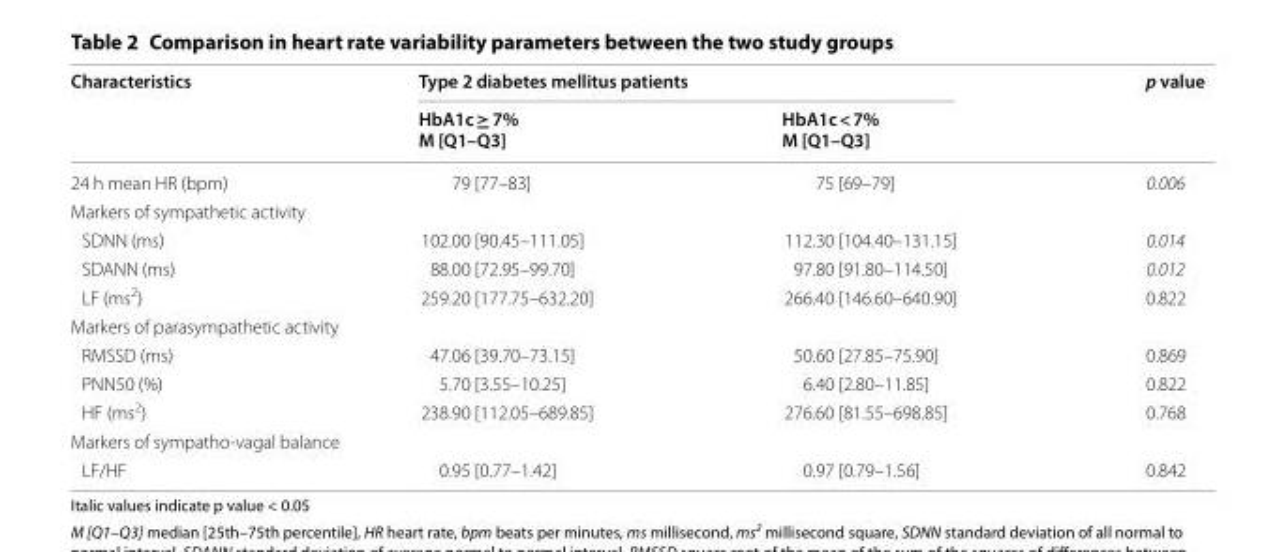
<table><thead><tr><td rowspan="2">Characteristics</td><td colspan="2">Type 2 diabetes mellitus patients</td><td rowspan="2">p value</td></tr><tr><td>HbA1c ≥ 7% M [Q1–Q3]</td><td>HbA1c &lt; 7% M [Q1–Q3]</td></tr></thead><tbody><tr><td>24 h mean HR (bpm)</td><td>79 [77–83]</td><td>75 [69–79]</td><td>0.006</td></tr><tr><td colspan="4">Markers of sympathetic activity</td></tr><tr><td>SDNN (ms)</td><td>102.00 [90.45–111.05]</td><td>112.30 [104.40–131.15]</td><td>0.014</td></tr><tr><td>SDANN (ms)</td><td>88.00 [72.95–99.70]</td><td>97.80 [91.80–114.50]</td><td>0.012</td></tr><tr><td>LF (ms<sup>2</sup>)</td><td>259.20 [177.75–632.20]</td><td>266.40 [146.60–640.90]</td><td>0.822</td></tr><tr><td colspan="4">Markers of parasympathetic activity</td></tr><tr><td>RMSSD (ms)</td><td>47.06 [39.70–73.15]</td><td>50.60 [27.85–75.90]</td><td>0.869</td></tr><tr><td>PNN50 (%)</td><td>5.70 [3.55–10.25]</td><td>6.40 [2.80–11.85]</td><td>0.822</td></tr><tr><td>HF (ms<sup>2</sup>)</td><td>238.90 [112.05–689.85]</td><td>276.60 [81.55–698.85]</td><td>0.768</td></tr><tr><td colspan="4">Markers of sympatho‑vagal balance</td></tr><tr><td>LF/HF</td><td>0.95 [0.77–1.42]</td><td>0.97 [0.79–1.56]</td><td>0.842</td></tr></tbody></table>